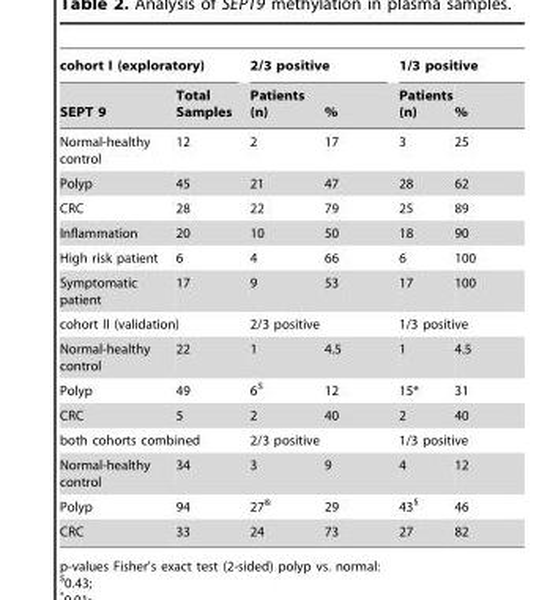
<table><thead><tr><td colspan="2">cohort I (exploratory)</td><td colspan="2">2/3 positive</td><td colspan="2">1/3 positive</td></tr><tr><td>SEPT 9</td><td>Total Samples</td><td>Patients (n)</td><td>%</td><td>Patients (n)</td><td>%</td></tr></thead><tbody><tr><td>Normal-healthy control</td><td>12</td><td>2</td><td>17</td><td>3</td><td>25</td></tr><tr><td>Polyp</td><td>45</td><td>21</td><td>47</td><td>28</td><td>62</td></tr><tr><td>CRC</td><td>28</td><td>22</td><td>79</td><td>25</td><td>89</td></tr><tr><td>Inflammation</td><td>20</td><td>10</td><td>50</td><td>18</td><td>90</td></tr><tr><td>High risk patient</td><td>6</td><td>4</td><td>66</td><td>6</td><td>100</td></tr><tr><td>Symptomatic patient</td><td>17</td><td>9</td><td>53</td><td>17</td><td>100</td></tr><tr><td colspan="2">cohort II (validation)</td><td colspan="2">2/3 positive</td><td colspan="2">1/3 positive</td></tr><tr><td>Normal-healthy control</td><td>22</td><td>1</td><td>4.5</td><td>1</td><td>4.5</td></tr><tr><td>Polyp</td><td>49</td><td>6$</td><td>12</td><td>15*</td><td>31</td></tr><tr><td>CRC</td><td>5</td><td>2</td><td>40</td><td>2</td><td>40</td></tr><tr><td colspan="2">both cohorts combined</td><td colspan="2">2/3 positive</td><td colspan="2">1/3 positive</td></tr><tr><td>Normal-healthy control</td><td>34</td><td>3</td><td>9</td><td>4</td><td>12</td></tr><tr><td>Polyp</td><td>94</td><td>27&amp;</td><td>29</td><td>43§</td><td>46</td></tr><tr><td>CRC</td><td>33</td><td>24</td><td>73</td><td>27</td><td>82</td></tr></tbody></table>